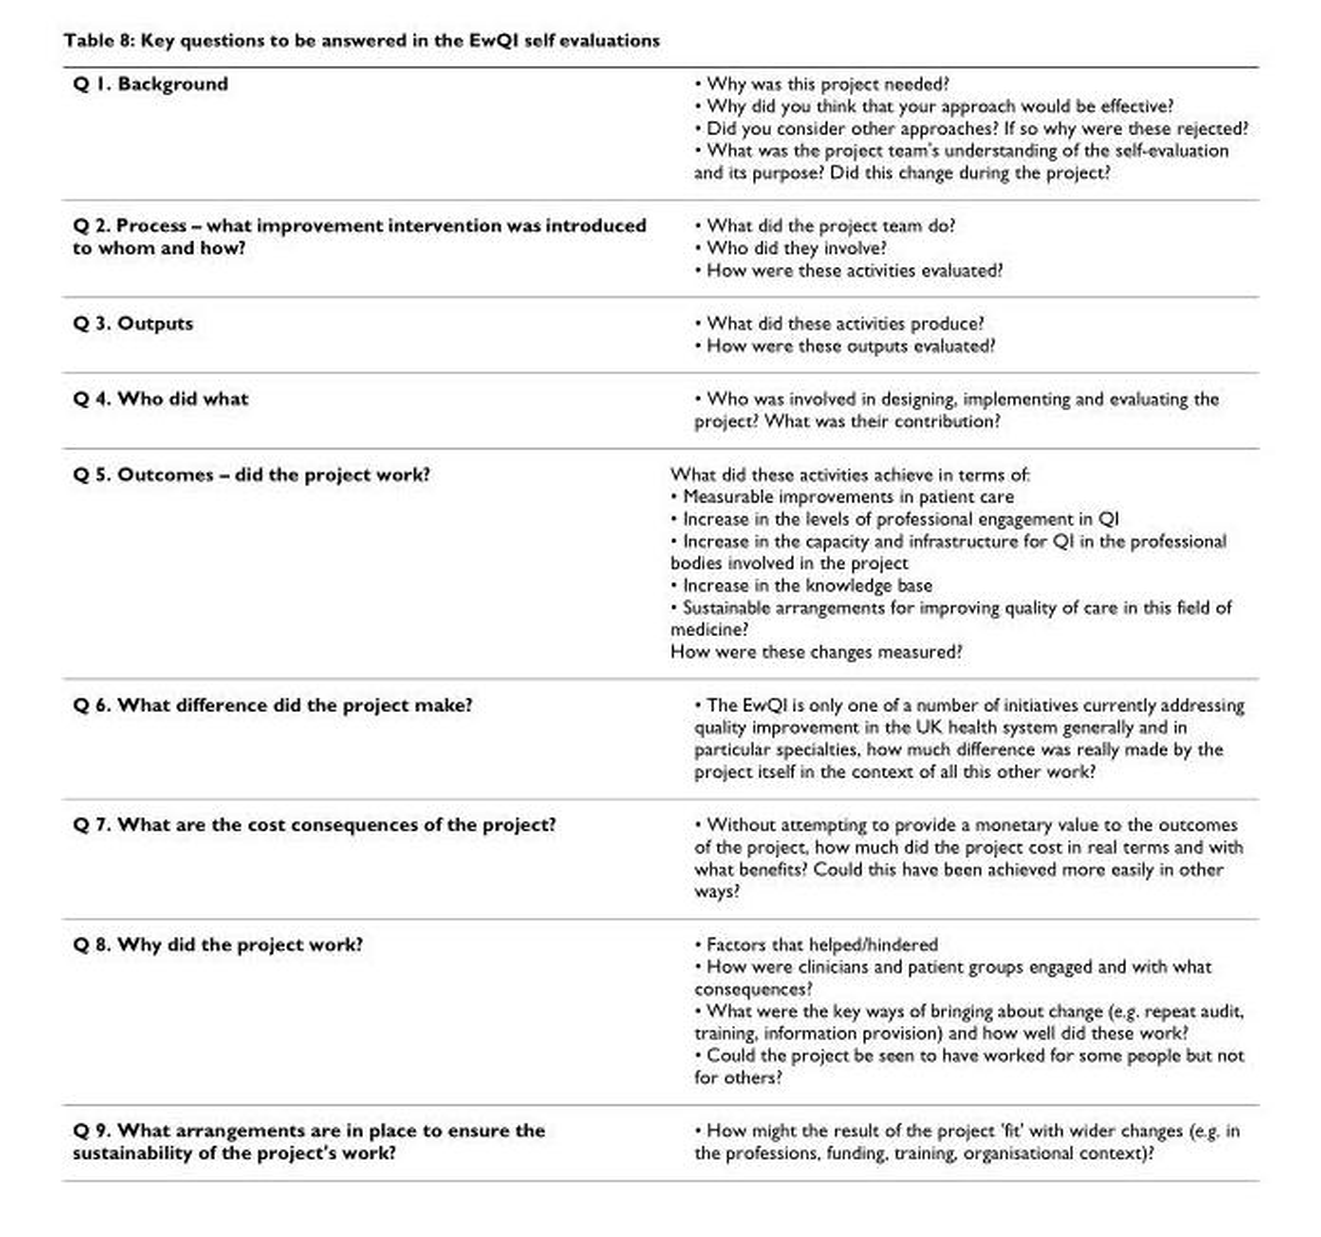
<table><thead><tr><td>Q 1. Background</td><td>• Why was this project needed? • Why did you think that your approach would be effective? • Did you consider other approaches? If so why were these rejected? • What was the project team&#x27;s understanding of the self-evaluation and its purpose? Did this change during the project?</td></tr></thead><tbody><tr><td>Q 2. Process – what improvement intervention was introduced to whom and how?</td><td>• What did the project team do? • Who did they involve? • How were these activities evaluated?</td></tr><tr><td>Q 3. Outputs</td><td>• What did these activities produce? • How were these outputs evaluated?</td></tr><tr><td>Q 4. Who did what</td><td>• Who was involved in designing, implementing and evaluating the project? What was their contribution?</td></tr><tr><td>Q 5. Outcomes – did the project work?</td><td>What did these activities achieve in terms of: • Measurable improvements in patient care • Increase in the levels of professional engagement in QI • Increase in the capacity and infrastructure for QI in the professional bodies involved in the project • Increase in the knowledge base • Sustainable arrangements for improving quality of care in this field of medicine? How were these changes measured?</td></tr><tr><td>Q 6. What difference did the project make?</td><td>• The EwQI is only one of a number of initiatives currently addressing quality improvement in the UK health system generally and in particular specialties, how much difference was really made by the project itself in the context of all this other work?</td></tr><tr><td>Q 7. What are the cost consequences of the project?</td><td>• Without attempting to provide a monetary value to the outcomes of the project, how much did the project cost in real terms and with what benefits? Could this have been achieved more easily in other ways?</td></tr><tr><td>Q 8. Why did the project work?</td><td>• Factors that helped/hindered • How were clinicians and patient groups engaged and with what consequences? • What were the key ways of bringing about change (e.g. repeat audit, training, information provision) and how well did these work? • Could the project be seen to have worked for some people but not for others?</td></tr><tr><td>Q 9. What arrangements are in place to ensure the sustainability of the project&#x27;s work?</td><td>• How might the result of the project &#x27;fit&#x27; with wider changes (e.g. in the professions, funding, training, organisational context)?</td></tr></tbody></table>